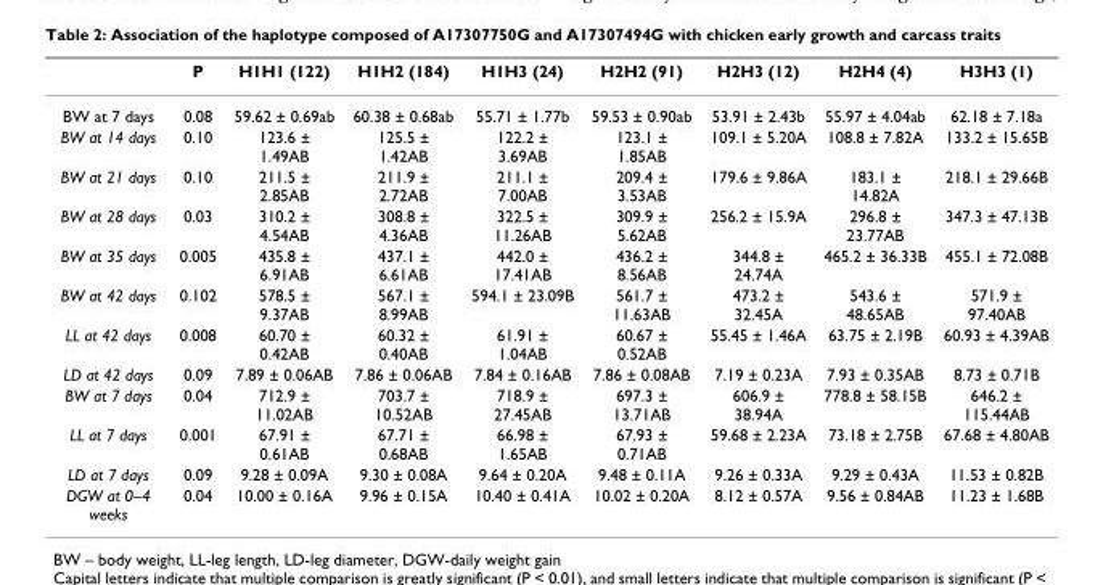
<table><thead><tr><td></td><td>P</td><td>H1H1 (122)</td><td>H1H2 (184)</td><td>H1H3 (24)</td><td>H2H2 (91)</td><td>H2H3 (12)</td><td>H2H4 (4)</td><td>H3H3 (1)</td></tr></thead><tbody><tr><td>BW at 7 days</td><td>0.08</td><td>59.62 ± 0.69ab</td><td>60.38 ± 0.68ab</td><td>55.71 ± 1.77b</td><td>59.53 ± 0.90ab</td><td>53.91 ± 2.43b</td><td>55.97 ± 4.04ab</td><td>62.18 ± 7.18a</td></tr><tr><td>BW at 14 days</td><td>0.10</td><td>123.6 ± 1.49AB</td><td>125.5 ± 1.42AB</td><td>122.2 ± 3.69AB</td><td>123.1 ± 1.85AB</td><td>109.1 ± 5.20A</td><td>108.8 ± 7.82A</td><td>133.2 ± 15.65B</td></tr><tr><td>BW at 21 days</td><td>0.10</td><td>211.5 ± 2.85AB</td><td>211.9 ± 2.72AB</td><td>211.1 ± 7.00AB</td><td>209.4 ± 3.53AB</td><td>179.6 ± 9.86A</td><td>183.1 ± 14.82A</td><td>218.1 ± 29.66B</td></tr><tr><td>BW at 28 days</td><td>0.03</td><td>310.2 ± 4.54AB</td><td>308.8 ± 4.36AB</td><td>322.5 ± 11.26AB</td><td>309.9 ± 5.62AB</td><td>256.2 ± 15.9A</td><td>296.8 ± 23.77AB</td><td>347.3 ± 47.13B</td></tr><tr><td>BW at 35 days</td><td>0.005</td><td>435.8 ± 6.91AB</td><td>437.1 ± 6.61AB</td><td>442.0 ± 17.41AB</td><td>436.2 ± 8.56AB</td><td>344.8 ± 24.74A</td><td>465.2 ± 36.33B</td><td>455.1 ± 72.08B</td></tr><tr><td>BW at 42 days</td><td>0.102</td><td>578.5 ± 9.37AB</td><td>567.1 ± 8.99AB</td><td>594.1 ± 23.09B</td><td>561.7 ± 11.63AB</td><td>473.2 ± 32.45A</td><td>543.6 ± 48.65AB</td><td>571.9 ± 97.40AB</td></tr><tr><td>LL at 42 days</td><td>0.008</td><td>60.70 ± 0.42AB</td><td>60.32 ± 0.40AB</td><td>61.91 ± 1.04AB</td><td>60.67 ± 0.52AB</td><td>55.45 ± 1.46A</td><td>63.75 ± 2.19B</td><td>60.93 ± 4.39AB</td></tr><tr><td>LD at 42 days</td><td>0.09</td><td>7.89 ± 0.06AB</td><td>7.86 ± 0.06AB</td><td>7.84 ± 0.16AB</td><td>7.86 ± 0.08AB</td><td>7.19 ± 0.23A</td><td>7.93 ± 0.35AB</td><td>8.73 ± 0.71B</td></tr><tr><td>BW at 7 days</td><td>0.04</td><td>712.9 ± 11.02AB</td><td>703.7 ± 10.52AB</td><td>718.9 ± 27.45AB</td><td>697.3 ± 13.71AB</td><td>606.9 ± 38.94A</td><td>778.8 ± 58.15B</td><td>646.2 ± 115.44AB</td></tr><tr><td>LL at 7 days</td><td>0.001</td><td>67.91 ± 0.61AB</td><td>67.71 ± 0.68AB</td><td>66.98 ± 1.65AB</td><td>67.93 ± 0.71AB</td><td>59.68 ± 2.23A</td><td>73.18 ± 2.75B</td><td>67.68 ± 4.80AB</td></tr><tr><td>LD at 7 days</td><td>0.09</td><td>9.28 ± 0.09A</td><td>9.30 ± 0.08A</td><td>9.64 ± 0.20A</td><td>9.48 ± 0.11A</td><td>9.26 ± 0.33A</td><td>9.29 ± 0.43A</td><td>11.53 ± 0.82B</td></tr><tr><td>DGW at 0–4 weeks</td><td>0.04</td><td>10.00 ± 0.16A</td><td>9.96 ± 0.15A</td><td>10.40 ± 0.41A</td><td>10.02 ± 0.20A</td><td>8.12 ± 0.57A</td><td>9.56 ± 0.84AB</td><td>11.23 ± 1.68B</td></tr></tbody></table>